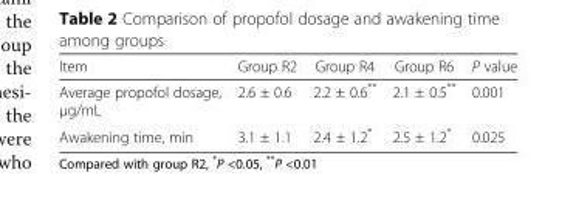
<table><thead><tr><td>Item</td><td>Group R2</td><td>Group R4</td><td>Group R6</td><td>P value</td></tr></thead><tbody><tr><td>Average propofol dosage, μg/mL</td><td>2.6 ± 0.6</td><td>2.2 ± 0.6**</td><td>2.1 ± 0.5**</td><td>0.001</td></tr><tr><td>Awakening time, min</td><td>3.1 ± 1.1</td><td>2.4 ± 1.2*</td><td>2.5 ± 1.2*</td><td>0.025</td></tr></tbody></table>